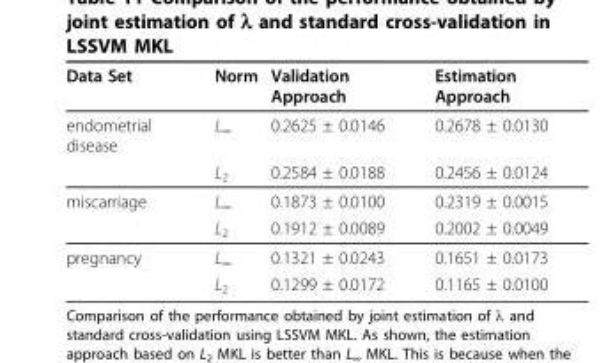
<table><thead><tr><td>Data Set</td><td>Norm</td><td>Validation Approach</td><td>Estimation Approach</td></tr></thead><tbody><tr><td rowspan="2">endometrial disease</td><td>L<sub>∞</sub></td><td>0.2625 ± 0.0146</td><td>0.2678 ± 0.0130</td></tr><tr><td>L<sub>2</sub></td><td>0.2584 ± 0.0188</td><td>0.2456 ± 0.0124</td></tr><tr><td rowspan="2">miscarriage</td><td>L<sub>∞</sub></td><td>0.1873 ± 0.0100</td><td>0.2319 ± 0.0015</td></tr><tr><td>L<sub>2</sub></td><td>0.1912 ± 0.0089</td><td>0.2002 ± 0.0049</td></tr><tr><td rowspan="2">pregnancy</td><td>L<sub>∞</sub></td><td>0.1321 ± 0.0243</td><td>0.1651 ± 0.0173</td></tr><tr><td>L<sub>2</sub></td><td>0.1299 ± 0.0172</td><td>0.1165 ± 0.0100</td></tr></tbody></table>